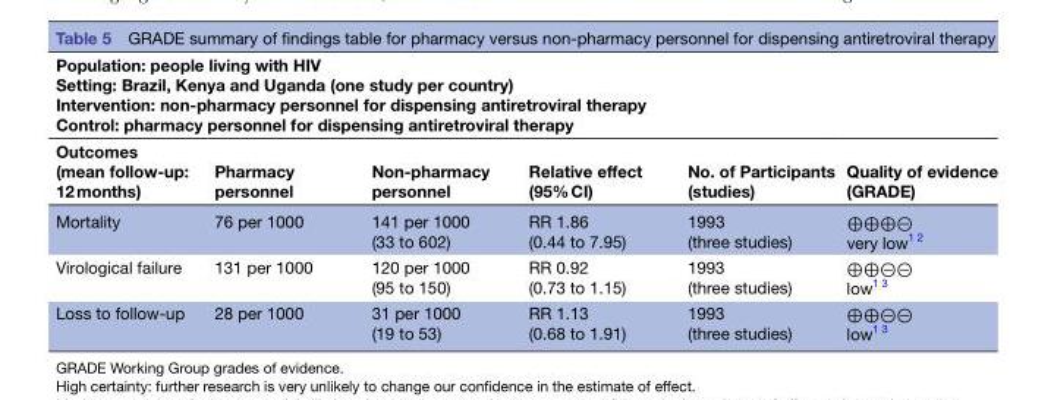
<table><thead><tr><td colspan="6">Population: people living with HIV Setting: Brazil, Kenya and Uganda (one study per country) Intervention: non-pharmacy personnel for dispensing antiretroviral therapy Control: pharmacy personnel for dispensing antiretroviral therapy</td></tr><tr><td>Outcomes (mean follow-up: 12 months)</td><td>Pharmacy personnel</td><td>Non-pharmacy personnel</td><td>Relative effect (95% CI)</td><td>No. of Participants (studies)</td><td>Quality of evidence (GRADE)</td></tr></thead><tbody><tr><td>Mortality</td><td>76 per 1000</td><td>141 per 1000 (33 to 602)</td><td>RR 1.86 (0.44 to 7.95)</td><td>1993 (three studies)</td><td>⊕⊕⊕⊝ very low<sup>1 2</sup></td></tr><tr><td>Virological failure</td><td>131 per 1000</td><td>120 per 1000 (95 to 150)</td><td>RR 0.92 (0.73 to 1.15)</td><td>1993 (three studies)</td><td>⊕⊕⊝⊝ low<sup>1 3</sup></td></tr><tr><td>Loss to follow-up</td><td>28 per 1000</td><td>31 per 1000 (19 to 53)</td><td>RR 1.13 (0.68 to 1.91)</td><td>1993 (three studies)</td><td>⊕⊕⊝⊝ low<sup>1 3</sup></td></tr></tbody></table>